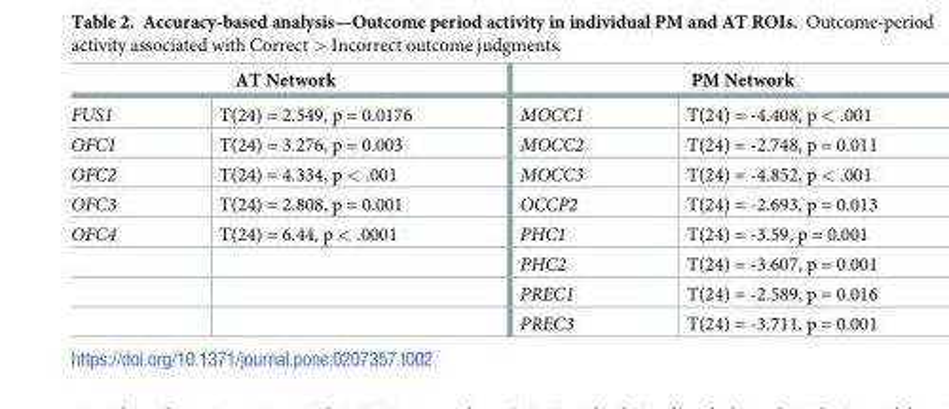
<table><thead><tr><td colspan="2">AT Network</td><td colspan="2">PM Network</td></tr><tr><td>FUS1</td><td>T(24) = 2.549, p = 0.0176</td><td>MOCC1</td><td>T(24) = -4.408, p &lt; .001</td></tr></thead><tbody><tr><td>OFC1</td><td>T(24) = 3.276, p = 0.003</td><td>MOCC2</td><td>T(24) = -2.748, p = 0.011</td></tr><tr><td>OFC2</td><td>T(24) = 4.334, p &lt; .001</td><td>MOCC3</td><td>T(24) = -4.852, p &lt; .001</td></tr><tr><td>OFC3</td><td>T(24) = 2.808, p = 0.001</td><td>OCCP2</td><td>T(24) = -2.693, p = 0.013</td></tr><tr><td rowspan="4">OFC4</td><td>T(24) = 6.44, p &lt; .0001</td><td>PHC1</td><td>T(24) = -3.59, p = 0.001</td></tr><tr><td></td><td>PHC2</td><td>T(24) = -3.607, p = 0.001</td></tr><tr><td></td><td>PREC1</td><td>T(24) = -2.589, p = 0.016</td></tr><tr><td></td><td>PREC3</td><td>T(24) = -3.711, p = 0.001</td></tr></tbody></table>